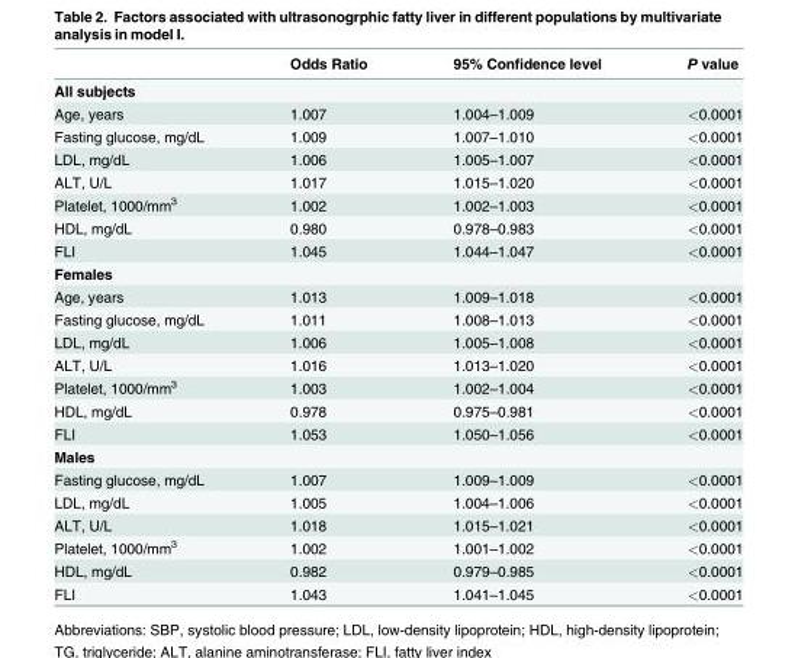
<table><thead><tr><td></td><td>Odds Ratio</td><td>95% Confidence level</td><td>P value</td></tr></thead><tbody><tr><td colspan="4">All subjects</td></tr><tr><td>Age, years</td><td>1.007</td><td>1.004–1.009</td><td>&lt;0.0001</td></tr><tr><td>Fasting glucose, mg/dL</td><td>1.009</td><td>1.007–1.010</td><td>&lt;0.0001</td></tr><tr><td>LDL, mg/dL</td><td>1.006</td><td>1.005–1.007</td><td>&lt;0.0001</td></tr><tr><td>ALT, U/L</td><td>1.017</td><td>1.015–1.020</td><td>&lt;0.0001</td></tr><tr><td>Platelet, 1000/mm<sup>3</sup></td><td>1.002</td><td>1.002–1.003</td><td>&lt;0.0001</td></tr><tr><td>HDL, mg/dL</td><td>0.980</td><td>0.978–0.983</td><td>&lt;0.0001</td></tr><tr><td>FLI</td><td>1.045</td><td>1.044–1.047</td><td>&lt;0.0001</td></tr><tr><td colspan="4">Females</td></tr><tr><td>Age, years</td><td>1.013</td><td>1.009–1.018</td><td>&lt;0.0001</td></tr><tr><td>Fasting glucose, mg/dL</td><td>1.011</td><td>1.008–1.013</td><td>&lt;0.0001</td></tr><tr><td>LDL, mg/dL</td><td>1.006</td><td>1.005–1.008</td><td>&lt;0.0001</td></tr><tr><td>ALT, U/L</td><td>1.016</td><td>1.013–1.020</td><td>&lt;0.0001</td></tr><tr><td>Platelet, 1000/mm<sup>3</sup></td><td>1.003</td><td>1.002–1.004</td><td>&lt;0.0001</td></tr><tr><td>HDL, mg/dL</td><td>0.978</td><td>0.975–0.981</td><td>&lt;0.0001</td></tr><tr><td>FLI</td><td>1.053</td><td>1.050–1.056</td><td>&lt;0.0001</td></tr><tr><td colspan="4">Males</td></tr><tr><td>Fasting glucose, mg/dL</td><td>1.007</td><td>1.009–1.009</td><td>&lt;0.0001</td></tr><tr><td>LDL, mg/dL</td><td>1.005</td><td>1.004–1.006</td><td>&lt;0.0001</td></tr><tr><td>ALT, U/L</td><td>1.018</td><td>1.015–1.021</td><td>&lt;0.0001</td></tr><tr><td>Platelet, 1000/mm<sup>3</sup></td><td>1.002</td><td>1.001–1.002</td><td>&lt;0.0001</td></tr><tr><td>HDL, mg/dL</td><td>0.982</td><td>0.979–0.985</td><td>&lt;0.0001</td></tr><tr><td>FLI</td><td>1.043</td><td>1.041–1.045</td><td>&lt;0.0001</td></tr></tbody></table>